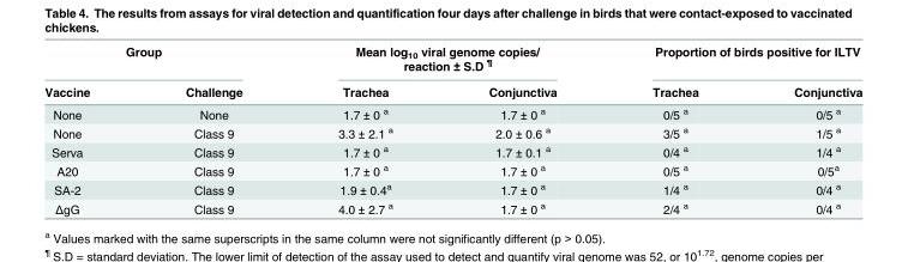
<table><thead><tr><td colspan="2">Group</td><td colspan="2">Mean log<sub>10</sub> viral genome copies/ reaction ± S.D <sup>¶</sup></td><td colspan="2">Proportion of birds positive for ILTV</td></tr><tr><td>Vaccine</td><td>Challenge</td><td>Trachea</td><td>Conjunctiva</td><td>Trachea</td><td>Conjunctiva</td></tr></thead><tbody><tr><td>None</td><td>None</td><td>1.7 ± 0 <sup>a</sup></td><td>1.7 ± 0 <sup>a</sup></td><td>0/5 <sup>a</sup></td><td>0/5 <sup>a</sup></td></tr><tr><td>None</td><td>Class 9</td><td>3.3 ± 2.1 <sup>a</sup></td><td>2.0 ± 0.6 <sup>a</sup></td><td>3/5 <sup>a</sup></td><td>1/5 <sup>a</sup></td></tr><tr><td>Serva</td><td>Class 9</td><td>1.7 ± 0 <sup>a</sup></td><td>1.7 ± 0.1 <sup>a</sup></td><td>0/4 <sup>a</sup></td><td>1/4 <sup>a</sup></td></tr><tr><td>A20</td><td>Class 9</td><td>1.7 ± 0 <sup>a</sup></td><td>1.7 ± 0 <sup>a</sup></td><td>0/5 <sup>a</sup></td><td>0/5<sup>a</sup></td></tr><tr><td>SA-2</td><td>Class 9</td><td>1.9 ± 0.4<sup>a</sup></td><td>1.7 ± 0 <sup>a</sup></td><td>1/4 <sup>a</sup></td><td>0/4 <sup>a</sup></td></tr><tr><td>ΔgG</td><td>Class 9</td><td>4.0 ± 2.7 <sup>a</sup></td><td>1.7 ± 0 <sup>a</sup></td><td>2/4 <sup>a</sup></td><td>0/4 <sup>a</sup></td></tr></tbody></table>